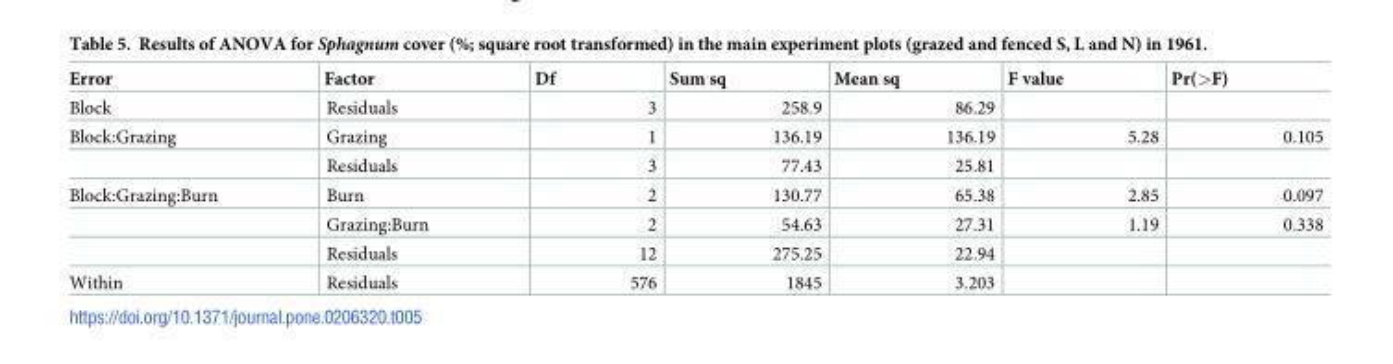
<table><thead><tr><td>Error</td><td>Factor</td><td>Df</td><td>Sum sq</td><td>Mean sq</td><td>F value</td><td>Pr(&gt;F)</td></tr></thead><tbody><tr><td>Block</td><td>Residuals</td><td>3</td><td>258.9</td><td>86.29</td><td></td><td></td></tr><tr><td rowspan="2">Block:Grazing</td><td>Grazing</td><td>1</td><td>136.19</td><td>136.19</td><td>5.28</td><td>0.105</td></tr><tr><td>Residuals</td><td>3</td><td>77.43</td><td>25.81</td><td></td><td></td></tr><tr><td rowspan="3">Block:Grazing:Burn</td><td>Burn</td><td>2</td><td>130.77</td><td>65.38</td><td>2.85</td><td>0.097</td></tr><tr><td>Grazing:Burn</td><td>2</td><td>54.63</td><td>27.31</td><td>1.19</td><td>0.338</td></tr><tr><td>Residuals</td><td>12</td><td>275.25</td><td>22.94</td><td></td><td></td></tr><tr><td>Within</td><td>Residuals</td><td>576</td><td>1845</td><td>3.203</td><td></td><td></td></tr></tbody></table>